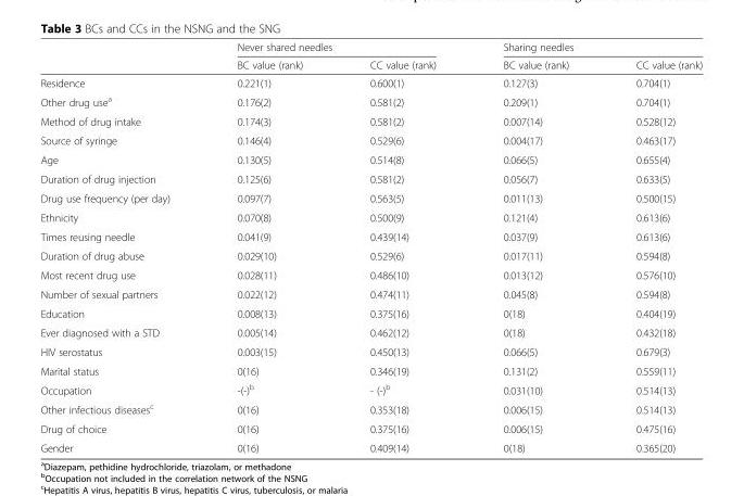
<table><thead><tr><td rowspan="2"></td><td colspan="2">Never shared needles</td><td colspan="2">Sharing needles</td></tr><tr><td>BC value (rank)</td><td>CC value (rank)</td><td>BC value (rank)</td><td>CC value (rank)</td></tr></thead><tbody><tr><td>Residence</td><td>0.221(1)</td><td>0.600(1)</td><td>0.127(3)</td><td>0.704(1)</td></tr><tr><td>Other drug use<sup>a</sup></td><td>0.176(2)</td><td>0.581(2)</td><td>0.209(1)</td><td>0.704(1)</td></tr><tr><td>Method of drug intake</td><td>0.174(3)</td><td>0.581(2)</td><td>0.007(14)</td><td>0.528(12)</td></tr><tr><td>Source of syringe</td><td>0.146(4)</td><td>0.529(6)</td><td>0.004(17)</td><td>0.463(17)</td></tr><tr><td>Age</td><td>0.130(5)</td><td>0.514(8)</td><td>0.066(5)</td><td>0.655(4)</td></tr><tr><td>Duration of drug injection</td><td>0.125(6)</td><td>0.581(2)</td><td>0.056(7)</td><td>0.633(5)</td></tr><tr><td>Drug use frequency (per day)</td><td>0.097(7)</td><td>0.563(5)</td><td>0.011(13)</td><td>0.500(15)</td></tr><tr><td>Ethnicity</td><td>0.070(8)</td><td>0.500(9)</td><td>0.121(4)</td><td>0.613(6)</td></tr><tr><td>Times reusing needle</td><td>0.041(9)</td><td>0.439(14)</td><td>0.037(9)</td><td>0.613(6)</td></tr><tr><td>Duration of drug abuse</td><td>0.029(10)</td><td>0.529(6)</td><td>0.017(11)</td><td>0.594(8)</td></tr><tr><td>Most recent drug use</td><td>0.028(11)</td><td>0.486(10)</td><td>0.013(12)</td><td>0.576(10)</td></tr><tr><td>Number of sexual partners</td><td>0.022(12)</td><td>0.474(11)</td><td>0.045(8)</td><td>0.594(8)</td></tr><tr><td>Education</td><td>0.008(13)</td><td>0.375(16)</td><td>0(18)</td><td>0.404(19)</td></tr><tr><td>Ever diagnosed with a STD</td><td>0.005(14)</td><td>0.462(12)</td><td>0(18)</td><td>0.432(18)</td></tr><tr><td>HIV serostatus</td><td>0.003(15)</td><td>0.450(13)</td><td>0.066(5)</td><td>0.679(3)</td></tr><tr><td>Marital status</td><td>0(16)</td><td>0.346(19)</td><td>0.131(2)</td><td>0.559(11)</td></tr><tr><td>Occupation</td><td>-(-)<sup>b</sup></td><td>- (-)<sup>b</sup></td><td>0.031(10)</td><td>0.514(13)</td></tr><tr><td>Other infectious diseases<sup>c</sup></td><td>0(16)</td><td>0.353(18)</td><td>0.006(15)</td><td>0.514(13)</td></tr><tr><td>Drug of choice</td><td>0(16)</td><td>0.375(16)</td><td>0.006(15)</td><td>0.475(16)</td></tr><tr><td>Gender</td><td>0(16)</td><td>0.409(14)</td><td>0(18)</td><td>0.365(20)</td></tr></tbody></table>